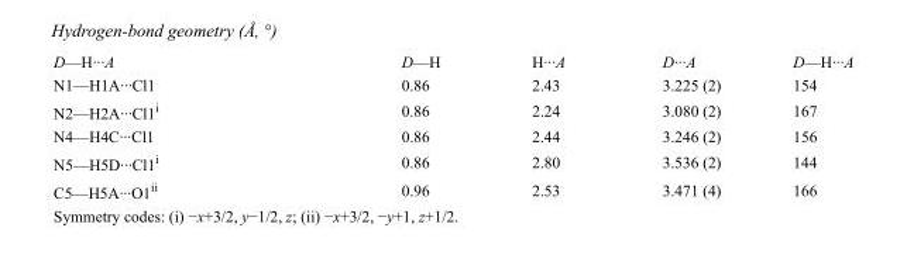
<table><tbody><tr><td>D—H···A</td><td>D—H</td><td>H···A</td><td>D···A</td><td>D—H···A</td></tr><tr><td>N1—H1A···Cl1</td><td>0.86</td><td>2.43</td><td>3.225 (2)</td><td>154</td></tr><tr><td>N2—H2A···Cl1<sup>i</sup></td><td>0.86</td><td>2.24</td><td>3.080 (2)</td><td>167</td></tr><tr><td>N4—H4C···Cl1</td><td>0.86</td><td>2.44</td><td>3.246 (2)</td><td>156</td></tr><tr><td>N5—H5D···Cl1<sup>i</sup></td><td>0.86</td><td>2.80</td><td>3.536 (2)</td><td>144</td></tr><tr><td>C5—H5A···O1<sup>ii</sup></td><td>0.96</td><td>2.53</td><td>3.471 (4)</td><td>166</td></tr></tbody></table>